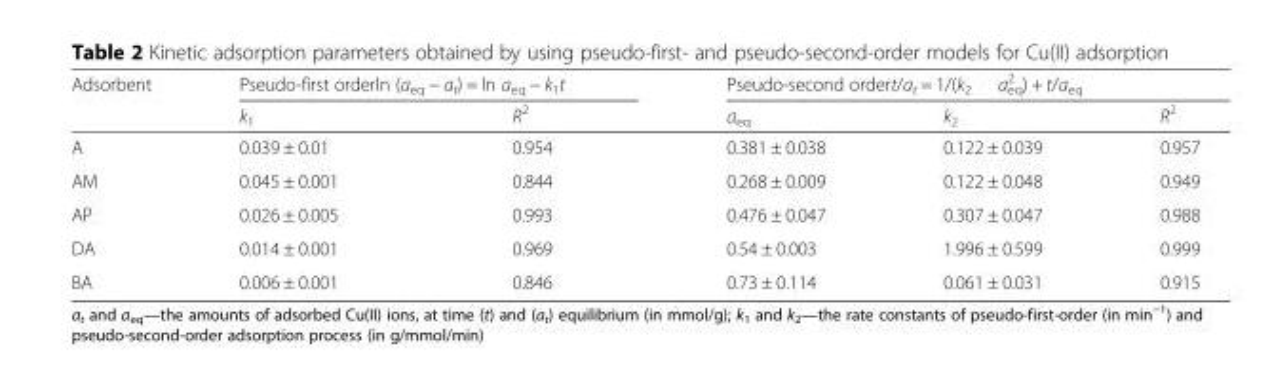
<table><thead><tr><td rowspan="2">Adsorbent</td><td colspan="2">Pseudo-first orderln (a<sub>eq</sub> − a<sub>t</sub>) = ln a<sub>eq</sub> − k<sub>1</sub>t</td><td colspan="3">Pseudo-second ordert/at = 1/(k2 aeq 2 ) + t/aeq</td></tr><tr><td>k<sub>1</sub></td><td>R<sup>2</sup></td><td>a<sub>eq</sub></td><td>k<sub>2</sub></td><td>R<sup>2</sup></td></tr></thead><tbody><tr><td>A</td><td>0.039 ± 0.01</td><td>0.954</td><td>0.381 ± 0.038</td><td>0.122 ± 0.039</td><td>0.957</td></tr><tr><td>AM</td><td>0.045 ± 0.001</td><td>0.844</td><td>0.268 ± 0.009</td><td>0.122 ± 0.048</td><td>0.949</td></tr><tr><td>AP</td><td>0.026 ± 0.005</td><td>0.993</td><td>0.476 ± 0.047</td><td>0.307 ± 0.047</td><td>0.988</td></tr><tr><td>DA</td><td>0.014 ± 0.001</td><td>0.969</td><td>0.54 ± 0.003</td><td>1.996 ± 0.599</td><td>0.999</td></tr><tr><td>BA</td><td>0.006 ± 0.001</td><td>0.846</td><td>0.73 ± 0.114</td><td>0.061 ± 0.031</td><td>0.915</td></tr></tbody></table>